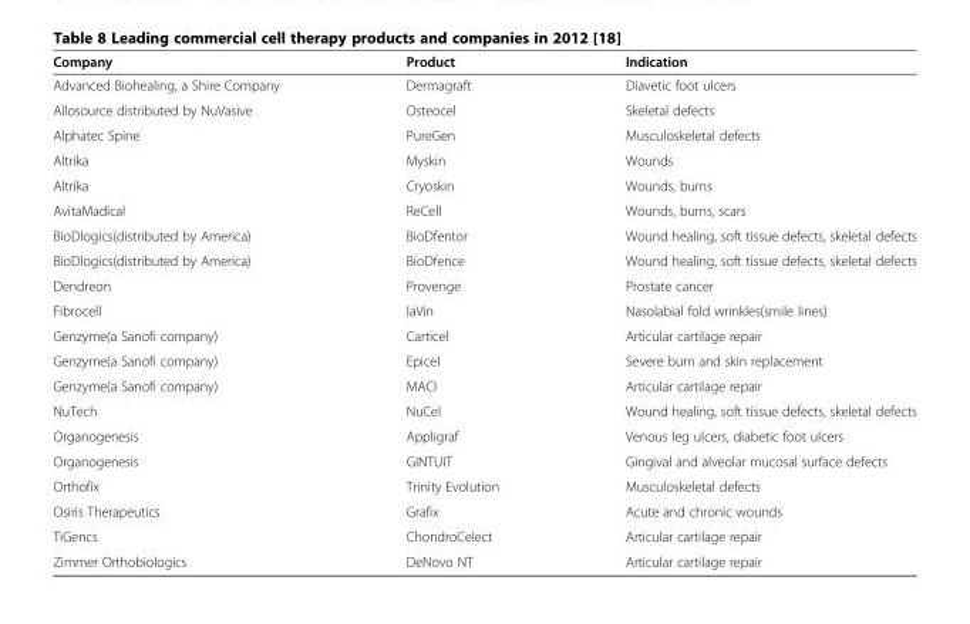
<table><thead><tr><td>Company</td><td>Product</td><td>Indication</td></tr></thead><tbody><tr><td>Advanced Biohealing, a Shire Company</td><td>Dermagraft</td><td>Diavetic foot ulcers</td></tr><tr><td>Allosource distributed by NuVasive</td><td>Osteocel</td><td>Skeletal defects</td></tr><tr><td>Alphatec Spine</td><td>PureGen</td><td>Musculoskeletal defects</td></tr><tr><td>Altrika</td><td>Myskin</td><td>Wounds</td></tr><tr><td>Altrika</td><td>Cryoskin</td><td>Wounds, burns</td></tr><tr><td>AvitaMadical</td><td>ReCell</td><td>Wounds, burns, scars</td></tr><tr><td>BioDlogics(distributed by America)</td><td>BioDfentor</td><td>Wound healing, soft tissue defects, skeletal defects</td></tr><tr><td>BioDlogics(distributed by America)</td><td>BioDfence</td><td>Wound healing, soft tissue defects, skeletal defects</td></tr><tr><td>Dendreon</td><td>Provenge</td><td>Prostate cancer</td></tr><tr><td>Fibrocell</td><td>laVin</td><td>Nasolabial fold wrinkles(smile lines)</td></tr><tr><td>Genzyme(a Sanofi company)</td><td>Carticel</td><td>Articular cartilage repair</td></tr><tr><td>Genzyme(a Sanofi company)</td><td>Epicel</td><td>Severe burn and skin replacement</td></tr><tr><td>Genzyme(a Sanofi company)</td><td>MACI</td><td>Articular cartilage repair</td></tr><tr><td>NuTech</td><td>NuCel</td><td>Wound healing, soft tissue defects, skeletal defects</td></tr><tr><td>Organogenesis</td><td>Appligraf</td><td>Venous leg ulcers, diabetic foot ulcers</td></tr><tr><td>Organogenesis</td><td>GINTUIT</td><td>Gingival and alveolar mucosal surface defects</td></tr><tr><td>Orthofix</td><td>Trinity Evolution</td><td>Musculoskeletal defects</td></tr><tr><td>Osiris Therapeutics</td><td>Grafix</td><td>Acute and chronic wounds</td></tr><tr><td>TiGencs</td><td>ChondroCelect</td><td>Articular cartilage repair</td></tr><tr><td>Zimmer Orthobiologics</td><td>DeNovo NT</td><td>Articular cartilage repair</td></tr></tbody></table>